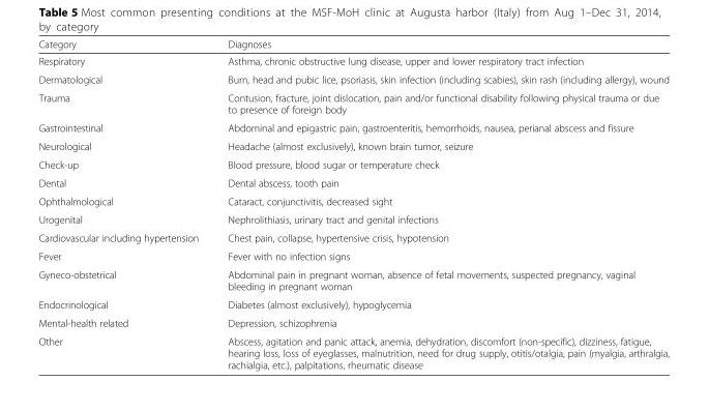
<table><thead><tr><td>Category</td><td>Diagnoses</td></tr></thead><tbody><tr><td>Respiratory</td><td>Asthma, chronic obstructive lung disease, upper and lower respiratory tract infection</td></tr><tr><td>Dermatological</td><td>Burn, head and pubic lice, psoriasis, skin infection (including scabies), skin rash (including allergy), wound</td></tr><tr><td>Trauma</td><td>Contusion, fracture, joint dislocation, pain and/or functional disability following physical trauma or due to presence of foreign body</td></tr><tr><td>Gastrointestinal</td><td>Abdominal and epigastric pain, gastroenteritis, hemorrhoids, nausea, perianal abscess and fissure</td></tr><tr><td>Neurological</td><td>Headache (almost exclusively), known brain tumor, seizure</td></tr><tr><td>Check-up</td><td>Blood pressure, blood sugar or temperature check</td></tr><tr><td>Dental</td><td>Dental abscess, tooth pain</td></tr><tr><td>Ophthalmological</td><td>Cataract, conjunctivitis, decreased sight</td></tr><tr><td>Urogenital</td><td>Nephrolithiasis, urinary tract and genital infections</td></tr><tr><td>Cardiovascular including hypertension</td><td>Chest pain, collapse, hypertensive crisis, hypotension</td></tr><tr><td>Fever</td><td>Fever with no infection signs</td></tr><tr><td>Gyneco-obstetrical</td><td>Abdominal pain in pregnant woman, absence of fetal movements, suspected pregnancy, vaginal bleeding in pregnant woman</td></tr><tr><td>Endocrinological</td><td>Diabetes (almost exclusively), hypoglycemia</td></tr><tr><td>Mental-health related</td><td>Depression, schizophrenia</td></tr><tr><td>Other</td><td>Abscess, agitation and panic attack, anemia, dehydration, discomfort (non-specific), dizziness, fatigue, hearing loss, loss of eyeglasses, malnutrition, need for drug supply, otitis/otalgia, pain (myalgia, arthralgia, rachialgia, etc.), palpitations, rheumatic disease</td></tr></tbody></table>